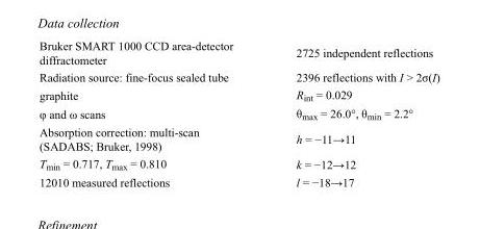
<table><tbody><tr><td>Bruker SMART 1000 CCD area-detector diffractometer</td><td>2725 independent reflections</td></tr><tr><td>Radiation source: fine-focus sealed tube</td><td>2396 reflections with I &gt; 2σ(I)</td></tr><tr><td>graphite</td><td>R<sub>int</sub> = 0.029</td></tr><tr><td>φ and ω scans</td><td>θ<sub>max</sub> = 26.0°, θ<sub>min</sub> = 2.2°</td></tr><tr><td>Absorption correction: multi-scan (SADABS; Bruker, 1998)</td><td>h = −11→11</td></tr><tr><td>T<sub>min</sub> = 0.717, T<sub>max</sub> = 0.810</td><td>k = −12→12</td></tr><tr><td>12010 measured reflections</td><td>l = −18→17</td></tr></tbody></table>